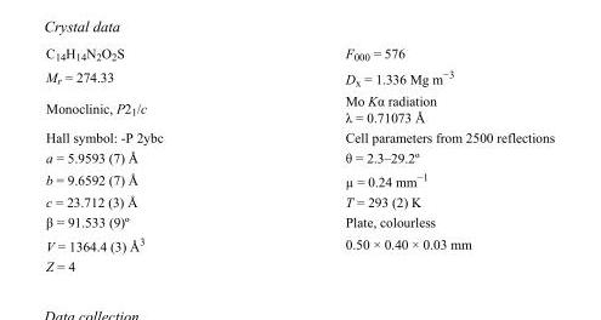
<table><tbody><tr><td>C<sub>14</sub>H<sub>14</sub>N<sub>2</sub>O<sub>2</sub>S</td><td>F<sub>000</sub> = 576</td></tr><tr><td>M<sub>r</sub> = 274.33</td><td>D<sub>x</sub> = 1.336 Mg m<sup>−3</sup></td></tr><tr><td>Monoclinic, P2<sub>1</sub>/c</td><td>Mo Kα radiation λ = 0.71073 Å</td></tr><tr><td>Hall symbol: -P 2ybc</td><td>Cell parameters from 2500 reflections</td></tr><tr><td>a = 5.9593 (7) Å</td><td>θ = 2.3–29.2º</td></tr><tr><td>b = 9.6592 (7) Å</td><td>µ = 0.24 mm<sup>−1</sup></td></tr><tr><td>c = 23.712 (3) Å</td><td>T = 293 (2) K</td></tr><tr><td>β = 91.533 (9)º</td><td>Plate, colourless</td></tr><tr><td>V = 1364.4 (3) Å<sup>3</sup></td><td>0.50 × 0.40 × 0.03 mm</td></tr><tr><td>Z = 4</td><td></td></tr></tbody></table>